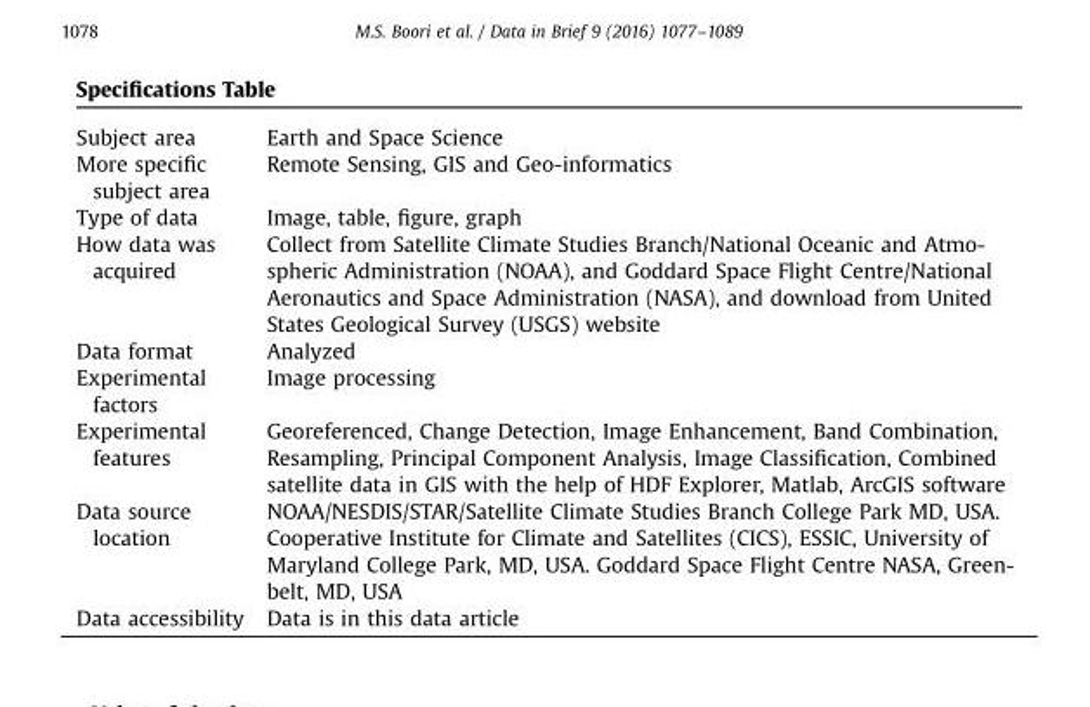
<table><tbody><tr><td colspan="2">Specifications Table</td></tr><tr><td>Subject area</td><td>Earth and Space Science</td></tr><tr><td>More specific subject area</td><td>Remote Sensing, GIS and Geo-informatics</td></tr><tr><td>Type of data</td><td>Image, table, figure, graph</td></tr><tr><td>How data was acquired</td><td>Collect from Satellite Climate Studies Branch/National Oceanic and Atmo- spheric Administration (NOAA), and Goddard Space Flight Centre/National Aeronautics and Space Administration (NASA), and download from United States Geological Survey (USGS) website</td></tr><tr><td>Data format</td><td>Analyzed</td></tr><tr><td>Experimental factors</td><td>Image processing</td></tr><tr><td>Experimental features</td><td>Georeferenced, Change Detection, Image Enhancement, Band Combination, Resampling, Principal Component Analysis, Image Classification, Combined satellite data in GIS with the help of HDF Explorer, Matlab, ArcGIS software</td></tr><tr><td>Data source location</td><td>NOAA/NESDIS/STAR/Satellite Climate Studies Branch College Park MD, USA. Cooperative Institute for Climate and Satellites (CICS), ESSIC, University of Maryland College Park, MD, USA. Goddard Space Flight Centre NASA, Green- belt, MD, USA</td></tr><tr><td>Data accessibility</td><td>Data is in this data article</td></tr></tbody></table>